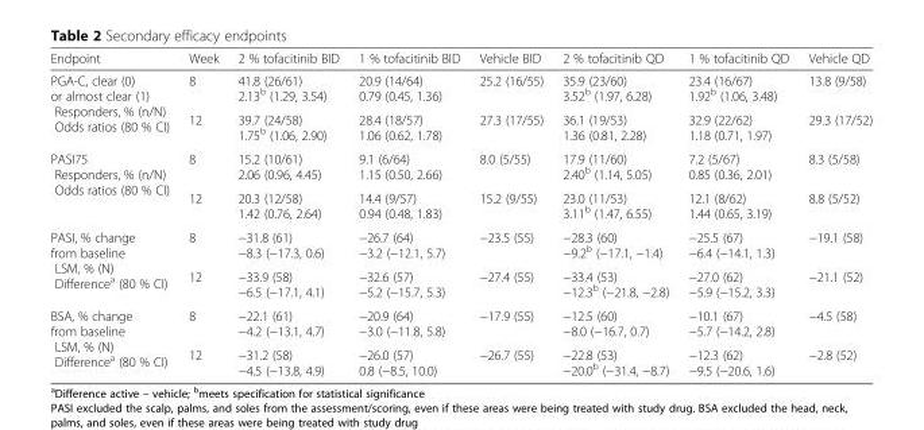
<table><thead><tr><td>Endpoint</td><td>Week</td><td>2 % tofacitinib BID</td><td>1 % tofacitinib BID</td><td>Vehicle BID</td><td>2 % tofacitinib QD</td><td>1 % tofacitinib QD</td><td>Vehicle QD</td></tr></thead><tbody><tr><td rowspan="2">PGA-C, clear (0) or almost clear (1) Responders, % (n/N) Odds ratios (80 % CI)</td><td>8</td><td>41.8 (26/61) 2.13<sup>b</sup> (1.29, 3.54)</td><td>20.9 (14/64) 0.79 (0.45, 1.36)</td><td>25.2 (16/55)</td><td>35.9 (23/60) 3.52<sup>b</sup> (1.97, 6.28)</td><td>23.4 (16/67) 1.92<sup>b</sup> (1.06, 3.48)</td><td>13.8 (9/58)</td></tr><tr><td>12</td><td>39.7 (24/58) 1.75<sup>b</sup> (1.06, 2.90)</td><td>28.4 (18/57) 1.06 (0.62, 1.78)</td><td>27.3 (17/55)</td><td>36.1 (19/53) 1.36 (0.81, 2.28)</td><td>32.9 (22/62) 1.18 (0.71, 1.97)</td><td>29.3 (17/52)</td></tr><tr><td rowspan="2">PASI75 Responders, % (n/N) Odds ratios (80 % CI)</td><td>8</td><td>15.2 (10/61) 2.06 (0.96, 4.45)</td><td>9.1 (6/64) 1.15 (0.50, 2.66)</td><td>8.0 (5/55)</td><td>17.9 (11/60) 2.40<sup>b</sup> (1.14, 5.05)</td><td>7.2 (5/67) 0.85 (0.36, 2.01)</td><td>8.3 (5/58)</td></tr><tr><td>12</td><td>20.3 (12/58) 1.42 (0.76, 2.64)</td><td>14.4 (9/57) 0.94 (0.48, 1.83)</td><td>15.2 (9/55)</td><td>23.0 (11/53) 3.11<sup>b</sup> (1.47, 6.55)</td><td>12.1 (8/62) 1.44 (0.65, 3.19)</td><td>8.8 (5/52)</td></tr><tr><td rowspan="2">PASI, % change from baseline LSM, % (N) Difference<sup>a</sup> (80 % CI)</td><td>8</td><td>−31.8 (61) −8.3 (−17.3, 0.6)</td><td>−26.7 (64) −3.2 (−12.1, 5.7)</td><td>−23.5 (55)</td><td>−28.3 (60) −9.2<sup>b</sup> (−17.1, −1.4)</td><td>−25.5 (67) −6.4 (−14.1, 1.3)</td><td>−19.1 (58)</td></tr><tr><td>12</td><td>−33.9 (58) −6.5 (−17.1, 4.1)</td><td>−32.6 (57) −5.2 (−15.7, 5.3)</td><td>−27.4 (55)</td><td>−33.4 (53) −12.3<sup>b</sup> (−21.8, −2.8)</td><td>−27.0 (62) −5.9 (−15.2, 3.3)</td><td>−21.1 (52)</td></tr><tr><td rowspan="2">BSA, % change from baseline LSM, % (N) Difference<sup>a</sup> (80 % CI)</td><td>8</td><td>−22.1 (61) −4.2 (−13.1, 4.7)</td><td>−20.9 (64) −3.0 (−11.8, 5.8)</td><td>−17.9 (55)</td><td>−12.5 (60) −8.0 (−16.7, 0.7)</td><td>−10.1 (67) −5.7 (−14.2, 2.8)</td><td>−4.5 (58)</td></tr><tr><td>12</td><td>−31.2 (58) −4.5 (−13.8, 4.9)</td><td>−26.0 (57) 0.8 (−8.5, 10.0)</td><td>−26.7 (55)</td><td>−22.8 (53) −20.0<sup>b</sup> (−31.4, −8.7)</td><td>−12.3 (62) −9.5 (−20.6, 1.6)</td><td>−2.8 (52)</td></tr></tbody></table>